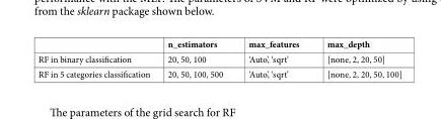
<table><thead><tr><td></td><td>n_estimators</td><td>max_features</td><td>max_depth</td></tr></thead><tbody><tr><td>RF in binary classification</td><td>20, 50, 100</td><td>‘Auto’, ‘sqrt’</td><td>[none, 2, 20, 50]</td></tr><tr><td>RF in 5 categories classification</td><td>20, 50, 100, 500</td><td>‘Auto’, ‘sqrt’</td><td>[none, 2, 20, 50, 100]</td></tr></tbody></table>